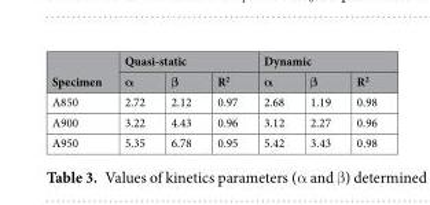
<table><thead><tr><td rowspan="2">Specimen</td><td colspan="3">Quasi-static</td><td colspan="3">Dynamic</td></tr><tr><td>α</td><td>β</td><td>R<sup>2</sup></td><td>α</td><td>β</td><td>R<sup>2</sup></td></tr></thead><tbody><tr><td>A850</td><td>2.72</td><td>2.12</td><td>0.97</td><td>2.68</td><td>1.19</td><td>0.98</td></tr><tr><td>A900</td><td>3.22</td><td>4.43</td><td>0.96</td><td>3.12</td><td>2.27</td><td>0.96</td></tr><tr><td>A950</td><td>5.35</td><td>6.78</td><td>0.95</td><td>5.42</td><td>3.43</td><td>0.98</td></tr></tbody></table>